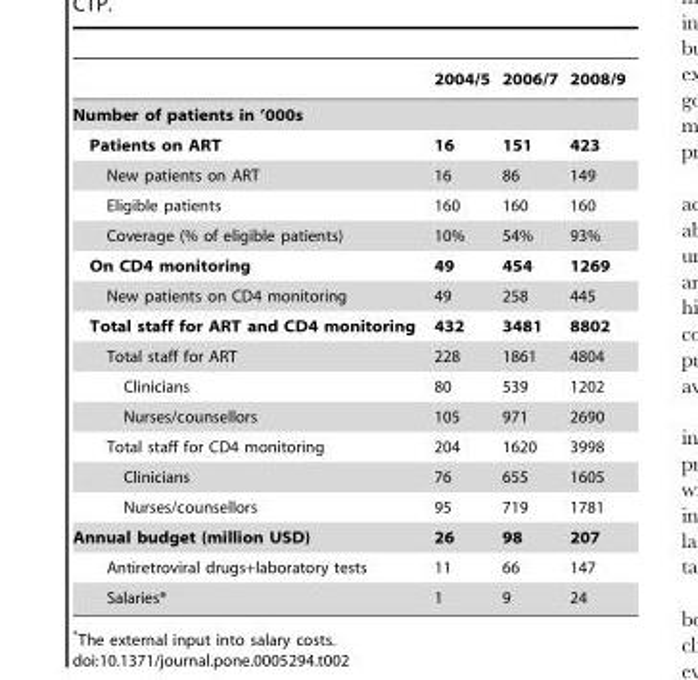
<table><thead><tr><td></td><td>2004/5</td><td>2006/7</td><td>2008/9</td></tr></thead><tbody><tr><td colspan="4">Number of patients in ’000s</td></tr><tr><td>Patients on ART</td><td>16</td><td>151</td><td>423</td></tr><tr><td>New patients on ART</td><td>16</td><td>86</td><td>149</td></tr><tr><td>Eligible patients</td><td>160</td><td>160</td><td>160</td></tr><tr><td>Coverage (% of eligible patients)</td><td>10%</td><td>54%</td><td>93%</td></tr><tr><td>On CD4 monitoring</td><td>49</td><td>454</td><td>1269</td></tr><tr><td>New patients on CD4 monitoring</td><td>49</td><td>258</td><td>445</td></tr><tr><td>Total staff for ART and CD4 monitoring</td><td>432</td><td>3481</td><td>8802</td></tr><tr><td>Total staff for ART</td><td>228</td><td>1861</td><td>4804</td></tr><tr><td>Clinicians</td><td>80</td><td>539</td><td>1202</td></tr><tr><td>Nurses/counsellors</td><td>105</td><td>971</td><td>2690</td></tr><tr><td>Total staff for CD4 monitoring</td><td>204</td><td>1620</td><td>3998</td></tr><tr><td>Clinicians</td><td>76</td><td>655</td><td>1605</td></tr><tr><td>Nurses/counsellors</td><td>95</td><td>719</td><td>1781</td></tr><tr><td>Annual budget (million USD)</td><td>26</td><td>98</td><td>207</td></tr><tr><td>Antiretroviral drugs+laboratory tests</td><td>11</td><td>66</td><td>147</td></tr><tr><td>Salaries*</td><td>1</td><td>9</td><td>24</td></tr></tbody></table>